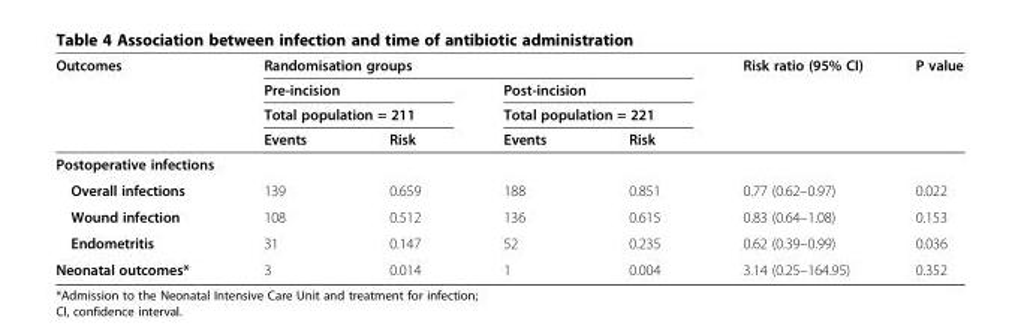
<table><thead><tr><td rowspan="4">Outcomes</td><td colspan="4">Randomisation groups</td><td rowspan="4">Risk ratio (95% CI)</td><td rowspan="4">P value</td></tr><tr><td rowspan="2" colspan="2">Pre-incision Total population = 211</td><td rowspan="2" colspan="2">Post-incision Total population = 221</td></tr><tr></tr><tr><td>Events</td><td>Risk</td><td>Events</td><td>Risk</td></tr></thead><tbody><tr><td colspan="7">Postoperative infections</td></tr><tr><td>Overall infections</td><td>139</td><td>0.659</td><td>188</td><td>0.851</td><td>0.77 (0.62–0.97)</td><td>0.022</td></tr><tr><td>Wound infection</td><td>108</td><td>0.512</td><td>136</td><td>0.615</td><td>0.83 (0.64–1.08)</td><td>0.153</td></tr><tr><td>Endometritis</td><td>31</td><td>0.147</td><td>52</td><td>0.235</td><td>0.62 (0.39–0.99)</td><td>0.036</td></tr><tr><td>Neonatal outcomes*</td><td>3</td><td>0.014</td><td>1</td><td>0.004</td><td>3.14 (0.25–164.95)</td><td>0.352</td></tr></tbody></table>